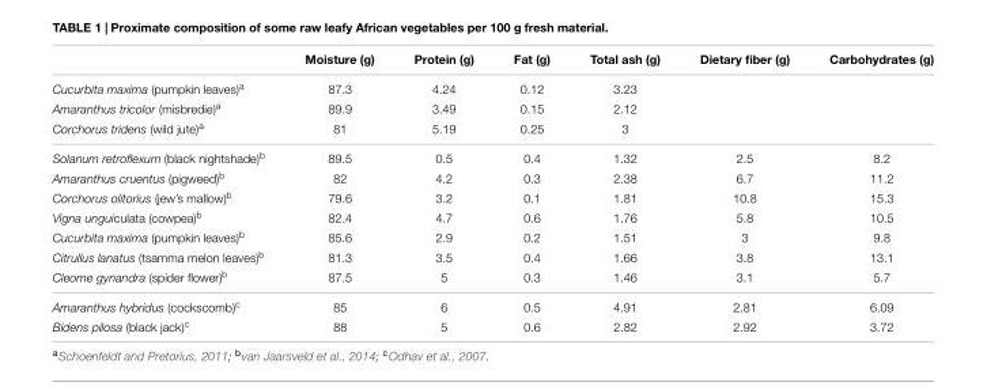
<table><thead><tr><td></td><td>Moisture (g)</td><td>Protein (g)</td><td>Fat (g)</td><td>Total ash (g)</td><td>Dietary fiber (g)</td><td>Carbohydrates (g)</td></tr></thead><tbody><tr><td>Cucurbita maxima (pumpkin leaves)<sup>a</sup></td><td>87.3</td><td>4.24</td><td>0.12</td><td>3.23</td><td></td><td></td></tr><tr><td>Amaranthus tricolor (misbredie)<sup>a</sup></td><td>89.9</td><td>3.49</td><td>0.15</td><td>2.12</td><td></td><td></td></tr><tr><td>Corchorus tridens (wild jute)<sup>a</sup></td><td>81</td><td>5.19</td><td>0.25</td><td>3</td><td></td><td></td></tr><tr><td>Solanum retroflexum (black nightshade)<sup>b</sup></td><td>89.5</td><td>0.5</td><td>0.4</td><td>1.32</td><td>2.5</td><td>8.2</td></tr><tr><td>Amaranthus cruentus (pigweed)<sup>b</sup></td><td>82</td><td>4.2</td><td>0.3</td><td>2.38</td><td>6.7</td><td>11.2</td></tr><tr><td>Corchorus olitorius (jew’s mallow)<sup>b</sup></td><td>79.6</td><td>3.2</td><td>0.1</td><td>1.81</td><td>10.8</td><td>15.3</td></tr><tr><td>Vigna unguiculata (cowpea)<sup>b</sup></td><td>82.4</td><td>4.7</td><td>0.6</td><td>1.76</td><td>5.8</td><td>10.5</td></tr><tr><td>Cucurbita maxima (pumpkin leaves)<sup>b</sup></td><td>85.6</td><td>2.9</td><td>0.2</td><td>1.51</td><td>3</td><td>9.8</td></tr><tr><td>Citrullus lanatus (tsamma melon leaves)<sup>b</sup></td><td>81.3</td><td>3.5</td><td>0.4</td><td>1.66</td><td>3.8</td><td>13.1</td></tr><tr><td>Cleome gynandra (spider flower)<sup>b</sup></td><td>87.5</td><td>5</td><td>0.3</td><td>1.46</td><td>3.1</td><td>5.7</td></tr><tr><td>Amaranthus hybridus (cockscomb)<sup>c</sup></td><td>85</td><td>6</td><td>0.5</td><td>4.91</td><td>2.81</td><td>6.09</td></tr><tr><td>Bidens pilosa (black jack)<sup>c</sup></td><td>88</td><td>5</td><td>0.6</td><td>2.82</td><td>2.92</td><td>3.72</td></tr></tbody></table>